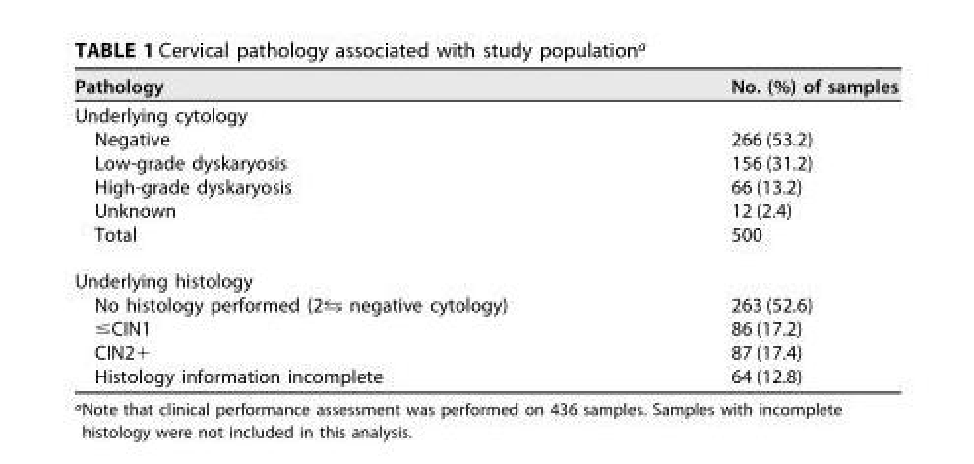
<table><thead><tr><td>Pathology</td><td>No. (%) of samples</td></tr></thead><tbody><tr><td colspan="2">Underlying cytology</td></tr><tr><td>Negative</td><td>266 (53.2)</td></tr><tr><td>Low-grade dyskaryosis</td><td>156 (31.2)</td></tr><tr><td>High-grade dyskaryosis</td><td>66 (13.2)</td></tr><tr><td>Unknown</td><td>12 (2.4)</td></tr><tr><td>Total</td><td>500</td></tr><tr><td colspan="2">Underlying histology</td></tr><tr><td>No histology performed (2⇆ negative cytology)</td><td>263 (52.6)</td></tr><tr><td>≤CIN1</td><td>86 (17.2)</td></tr><tr><td>CIN2+</td><td>87 (17.4)</td></tr><tr><td>Histology information incomplete</td><td>64 (12.8)</td></tr></tbody></table>